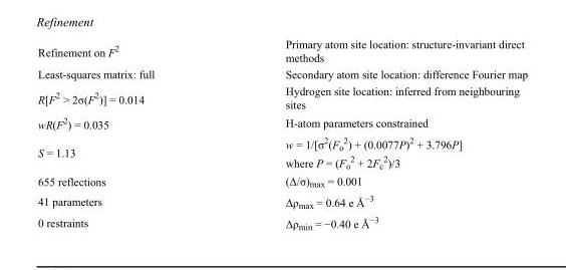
<table><tbody><tr><td>Refinement on F<sup>2</sup></td><td>Primary atom site location: structure-invariant direct methods</td></tr><tr><td>Least-squares matrix: full</td><td>Secondary atom site location: difference Fourier map</td></tr><tr><td>R[F<sup>2</sup> &gt; 2σ(F<sup>2</sup>)] = 0.014</td><td>Hydrogen site location: inferred from neighbouring sites</td></tr><tr><td>wR(F<sup>2</sup>) = 0.035</td><td>H-atom parameters constrained</td></tr><tr><td>S = 1.13</td><td>w = 1/[σ<sup>2</sup>(F<sub>o</sub> <sup>2</sup>) + (0.0077P)<sup>2</sup> + 3.796P] where P = (F<sub>o</sub> <sup>2</sup> + 2F<sub>c</sub> <sup>2</sup>)/3</td></tr><tr><td>655 reflections</td><td>(Δ/σ)<sub>max</sub> = 0.001</td></tr><tr><td>41 parameters</td><td>Δρ<sub>max</sub> = 0.64 e Å<sup>−3</sup></td></tr><tr><td>0 restraints</td><td>Δρ<sub>min</sub> = −0.40 e Å<sup>−3</sup></td></tr></tbody></table>